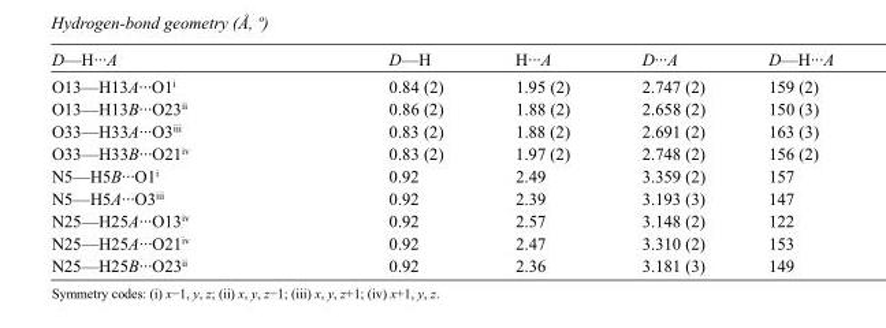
<table><tbody><tr><td>D—H···A</td><td>D—H</td><td>H···A</td><td>D···A</td><td>D—H···A</td></tr><tr><td>O13—H13A···O1<sup>i</sup></td><td>0.84 (2)</td><td>1.95 (2)</td><td>2.747 (2)</td><td>159 (2)</td></tr><tr><td>O13—H13B···O23<sup>ii</sup></td><td>0.86 (2)</td><td>1.88 (2)</td><td>2.658 (2)</td><td>150 (3)</td></tr><tr><td>O33—H33A···O3<sup>iii</sup></td><td>0.83 (2)</td><td>1.88 (2)</td><td>2.691 (2)</td><td>163 (3)</td></tr><tr><td>O33—H33B···O21<sup>iv</sup></td><td>0.83 (2)</td><td>1.97 (2)</td><td>2.748 (2)</td><td>156 (2)</td></tr><tr><td>N5—H5B···O1<sup>i</sup></td><td>0.92</td><td>2.49</td><td>3.359 (2)</td><td>157</td></tr><tr><td>N5—H5A···O3<sup>iii</sup></td><td>0.92</td><td>2.39</td><td>3.193 (3)</td><td>147</td></tr><tr><td>N25—H25A···O13<sup>iv</sup></td><td>0.92</td><td>2.57</td><td>3.148 (2)</td><td>122</td></tr><tr><td>N25—H25A···O21<sup>iv</sup></td><td>0.92</td><td>2.47</td><td>3.310 (2)</td><td>153</td></tr><tr><td>N25—H25B···O23<sup>ii</sup></td><td>0.92</td><td>2.36</td><td>3.181 (3)</td><td>149</td></tr></tbody></table>